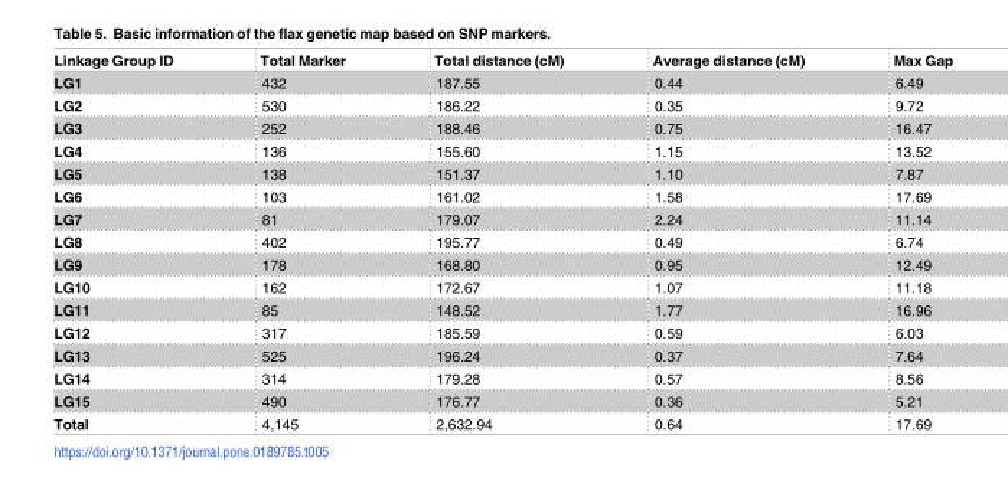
<table><thead><tr><td>Linkage Group ID</td><td>Total Marker</td><td>Total distance (cM)</td><td>Average distance (cM)</td><td>Max Gap</td></tr></thead><tbody><tr><td>LG1</td><td>432</td><td>187.55</td><td>0.44</td><td>6.49</td></tr><tr><td>LG2</td><td>530</td><td>186.22</td><td>0.35</td><td>9.72</td></tr><tr><td>LG3</td><td>252</td><td>188.46</td><td>0.75</td><td>16.47</td></tr><tr><td>LG4</td><td>136</td><td>155.60</td><td>1.15</td><td>13.52</td></tr><tr><td>LG5</td><td>138</td><td>151.37</td><td>1.10</td><td>7.87</td></tr><tr><td>LG6</td><td>103</td><td>161.02</td><td>1.58</td><td>17.69</td></tr><tr><td>LG7</td><td>81</td><td>179.07</td><td>2.24</td><td>11.14</td></tr><tr><td>LG8</td><td>402</td><td>195.77</td><td>0.49</td><td>6.74</td></tr><tr><td>LG9</td><td>178</td><td>168.80</td><td>0.95</td><td>12.49</td></tr><tr><td>LG10</td><td>162</td><td>172.67</td><td>1.07</td><td>11.18</td></tr><tr><td>LG11</td><td>85</td><td>148.52</td><td>1.77</td><td>16.96</td></tr><tr><td>LG12</td><td>317</td><td>185.59</td><td>0.59</td><td>6.03</td></tr><tr><td>LG13</td><td>525</td><td>196.24</td><td>0.37</td><td>7.64</td></tr><tr><td>LG14</td><td>314</td><td>179.28</td><td>0.57</td><td>8.56</td></tr><tr><td>LG15</td><td>490</td><td>176.77</td><td>0.36</td><td>5.21</td></tr><tr><td>Total</td><td>4,145</td><td>2,632.94</td><td>0.64</td><td>17.69</td></tr></tbody></table>